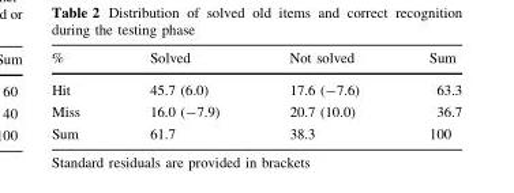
<table><thead><tr><td>%</td><td>Solved</td><td>Not solved</td><td>Sum</td></tr></thead><tbody><tr><td>Hit</td><td>45.7 (6.0)</td><td>17.6 (-7.6)</td><td>63.3</td></tr><tr><td>Miss</td><td>16.0 (-7.9)</td><td>20.7 (10.0)</td><td>36.7</td></tr><tr><td>Sum</td><td>61.7</td><td>38.3</td><td>100</td></tr></tbody></table>